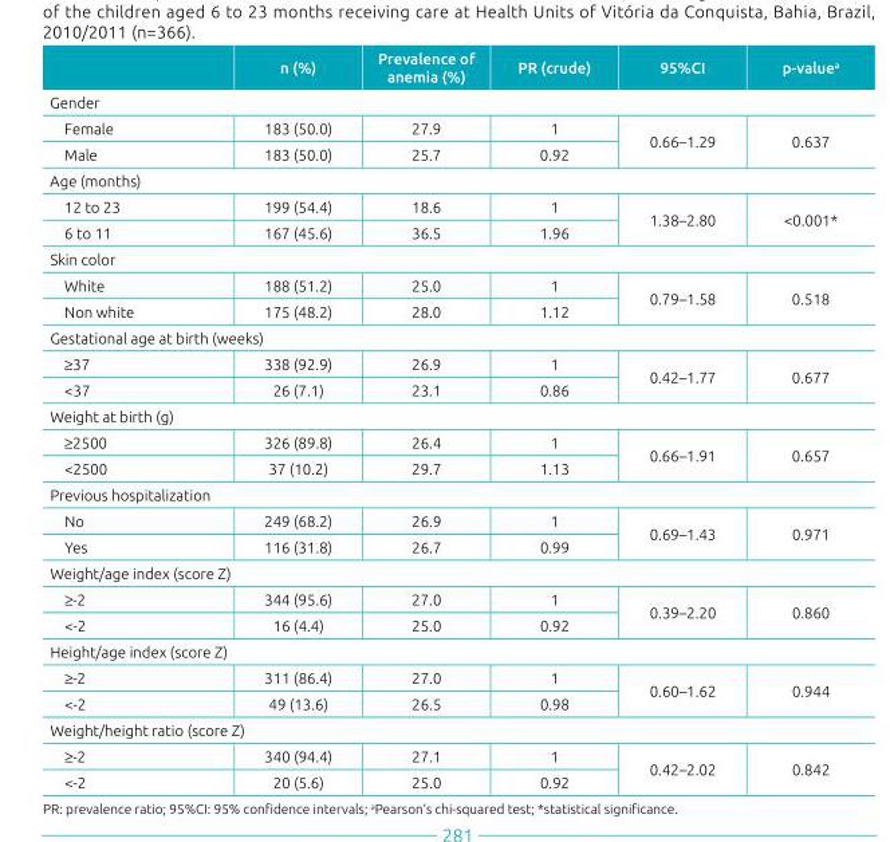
<table><thead><tr><td></td><td>n (%)</td><td>Prevalence of anemia (%)</td><td>PR (crude)</td><td>95%CI</td><td>p‑value<sup>a</sup></td></tr></thead><tbody><tr><td colspan="6">Gender</td></tr><tr><td>Female</td><td>183 (50.0)</td><td>27.9</td><td>1</td><td rowspan="2">0.66–1.29</td><td rowspan="2">0.637</td></tr><tr><td>Male</td><td>183 (50.0)</td><td>25.7</td><td>0.92</td></tr><tr><td colspan="6">Age (months)</td></tr><tr><td>12 to 23</td><td>199 (54.4)</td><td>18.6</td><td>1</td><td rowspan="2">1.38–2.80</td><td rowspan="2">&lt;0.001*</td></tr><tr><td>6 to 11</td><td>167 (45.6)</td><td>36.5</td><td>1.96</td></tr><tr><td colspan="6">Skin color</td></tr><tr><td>White</td><td>188 (51.2)</td><td>25.0</td><td>1</td><td rowspan="2">0.79–1.58</td><td rowspan="2">0.518</td></tr><tr><td>Non white</td><td>175 (48.2)</td><td>28.0</td><td>1.12</td></tr><tr><td colspan="6">Gestational age at birth (weeks)</td></tr><tr><td>≥37</td><td>338 (92.9)</td><td>26.9</td><td>1</td><td rowspan="2">0.42–1.77</td><td rowspan="2">0.677</td></tr><tr><td>&lt;37</td><td>26 (7.1)</td><td>23.1</td><td>0.86</td></tr><tr><td colspan="6">Weight at birth (g)</td></tr><tr><td>≥2500</td><td>326 (89.8)</td><td>26.4</td><td>1</td><td rowspan="2">0.66–1.91</td><td rowspan="2">0.657</td></tr><tr><td>&lt;2500</td><td>37 (10.2)</td><td>29.7</td><td>1.13</td></tr><tr><td colspan="6">Previous hospitalization</td></tr><tr><td>No</td><td>249 (68.2)</td><td>26.9</td><td>1</td><td rowspan="2">0.69–1.43</td><td rowspan="2">0.971</td></tr><tr><td>Yes</td><td>116 (31.8)</td><td>26.7</td><td>0.99</td></tr><tr><td colspan="6">Weight/age index (score Z)</td></tr><tr><td>≥‑2</td><td>344 (95.6)</td><td>27.0</td><td>1</td><td rowspan="2">0.39–2.20</td><td rowspan="2">0.860</td></tr><tr><td>&lt;‑2</td><td>16 (4.4)</td><td>25.0</td><td>0.92</td></tr><tr><td colspan="6">Height/age index (score Z)</td></tr><tr><td>≥‑2</td><td>311 (86.4)</td><td>27.0</td><td>1</td><td rowspan="2">0.60–1.62</td><td rowspan="2">0.944</td></tr><tr><td>&lt;‑2</td><td>49 (13.6)</td><td>26.5</td><td>0.98</td></tr><tr><td colspan="6">Weight/height ratio (score Z)</td></tr><tr><td>≥‑2</td><td>340 (94.4)</td><td>27.1</td><td>1</td><td rowspan="2">0.42–2.02</td><td rowspan="2">0.842</td></tr><tr><td>&lt;‑2</td><td>20 (5.6)</td><td>25.0</td><td>0.92</td></tr></tbody></table>